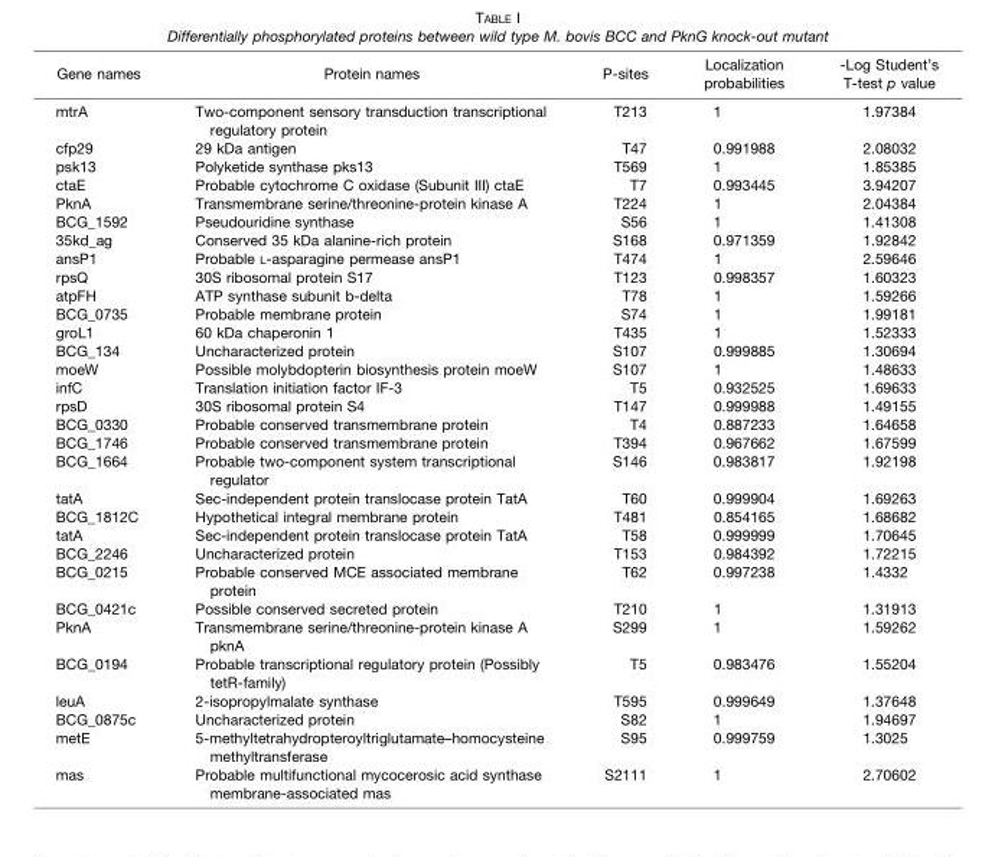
<table><thead><tr><td>Gene names</td><td>Protein names</td><td>P-sites</td><td>Localization probabilities</td><td>-Log Student’s T-test p value</td></tr></thead><tbody><tr><td>mtrA</td><td>Two-component sensory transduction transcriptional regulatory protein</td><td>T213</td><td>1</td><td>1.97384</td></tr><tr><td>cfp29</td><td>29 kDa antigen</td><td>T47</td><td>0.991988</td><td>2.08032</td></tr><tr><td>psk13</td><td>Polyketide synthase pks13</td><td>T569</td><td>1</td><td>1.85385</td></tr><tr><td>ctaE</td><td>Probable cytochrome C oxidase (Subunit III) ctaE</td><td>T7</td><td>0.993445</td><td>3.94207</td></tr><tr><td>PknA</td><td>Transmembrane serine/threonine-protein kinase A</td><td>T224</td><td>1</td><td>2.04384</td></tr><tr><td>BCG_1592</td><td>Pseudouridine synthase</td><td>S56</td><td>1</td><td>1.41308</td></tr><tr><td>35kd_ag</td><td>Conserved 35 kDa alanine-rich protein</td><td>S168</td><td>0.971359</td><td>1.92842</td></tr><tr><td>ansP1</td><td>Probable L-asparagine permease ansP1</td><td>T474</td><td>1</td><td>2.59646</td></tr><tr><td>rpsQ</td><td>30S ribosomal protein S17</td><td>T123</td><td>0.998357</td><td>1.60323</td></tr><tr><td>atpFH</td><td>ATP synthase subunit b-delta</td><td>T78</td><td>1</td><td>1.59266</td></tr><tr><td>BCG_0735</td><td>Probable membrane protein</td><td>S74</td><td>1</td><td>1.99181</td></tr><tr><td>groL1</td><td>60 kDa chaperonin 1</td><td>T435</td><td>1</td><td>1.52333</td></tr><tr><td>BCG_134</td><td>Uncharacterized protein</td><td>S107</td><td>0.999885</td><td>1.30694</td></tr><tr><td>moeW</td><td>Possible molybdopterin biosynthesis protein moeW</td><td>S107</td><td>1</td><td>1.48633</td></tr><tr><td>infC</td><td>Translation initiation factor IF-3</td><td>T5</td><td>0.932525</td><td>1.69633</td></tr><tr><td>rpsD</td><td>30S ribosomal protein S4</td><td>T147</td><td>0.999988</td><td>1.49155</td></tr><tr><td>BCG_0330</td><td>Probable conserved transmembrane protein</td><td>T4</td><td>0.887233</td><td>1.64658</td></tr><tr><td>BCG_1746</td><td>Probable conserved transmembrane protein</td><td>T394</td><td>0.967662</td><td>1.67599</td></tr><tr><td>BCG_1664</td><td>Probable two-component system transcriptional regulator</td><td>S146</td><td>0.983817</td><td>1.92198</td></tr><tr><td>tatA</td><td>Sec-independent protein translocase protein TatA</td><td>T60</td><td>0.999904</td><td>1.69263</td></tr><tr><td>BCG_1812C</td><td>Hypothetical integral membrane protein</td><td>T481</td><td>0.854165</td><td>1.68682</td></tr><tr><td>tatA</td><td>Sec-independent protein translocase protein TatA</td><td>T58</td><td>0.999999</td><td>1.70645</td></tr><tr><td>BCG_2246</td><td>Uncharacterized protein</td><td>T153</td><td>0.984392</td><td>1.72215</td></tr><tr><td>BCG_0215</td><td>Probable conserved MCE associated membrane protein</td><td>T62</td><td>0.997238</td><td>1.4332</td></tr><tr><td>BCG_0421c</td><td>Possible conserved secreted protein</td><td>T210</td><td>1</td><td>1.31913</td></tr><tr><td>PknA</td><td>Transmembrane serine/threonine-protein kinase A pknA</td><td>S299</td><td>1</td><td>1.59262</td></tr><tr><td>BCG_0194</td><td>Probable transcriptional regulatory protein (Possibly tetR-family)</td><td>T5</td><td>0.983476</td><td>1.55204</td></tr><tr><td>leuA</td><td>2-isopropylmalate synthase</td><td>T595</td><td>0.999649</td><td>1.37648</td></tr><tr><td>BCG_0875c</td><td>Uncharacterized protein</td><td>S82</td><td>1</td><td>1.94697</td></tr><tr><td>metE</td><td>5-methyltetrahydropteroyltriglutamate–homocysteine methyltransferase</td><td>S95</td><td>0.999759</td><td>1.3025</td></tr><tr><td>mas</td><td>Probable multifunctional mycocerosic acid synthase membrane-associated mas</td><td>S2111</td><td>1</td><td>2.70602</td></tr></tbody></table>